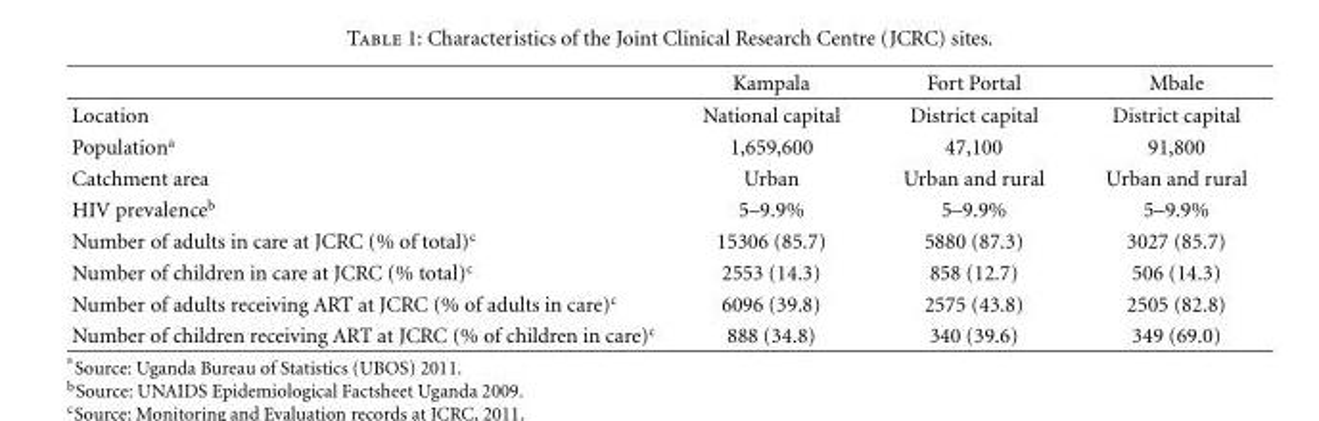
<table><thead><tr><td></td><td>Kampala</td><td>Fort Portal</td><td>Mbale</td></tr></thead><tbody><tr><td>Location</td><td>National capital</td><td>District capital</td><td>District capital</td></tr><tr><td>Population<sup>a</sup></td><td>1,659,600</td><td>47,100</td><td>91,800</td></tr><tr><td>Catchment area</td><td>Urban</td><td>Urban and rural</td><td>Urban and rural</td></tr><tr><td>HIV prevalence<sup>b</sup></td><td>5–9.9%</td><td>5–9.9%</td><td>5–9.9%</td></tr><tr><td>Number of adults in care at JCRC (% of total)<sup>c</sup></td><td>15306 (85.7)</td><td>5880 (87.3)</td><td>3027 (85.7)</td></tr><tr><td>Number of children in care at JCRC (% total)<sup>c</sup></td><td>2553 (14.3)</td><td>858 (12.7)</td><td>506 (14.3)</td></tr><tr><td>Number of adults receiving ART at JCRC (% of adults in care)<sup>c</sup></td><td>6096 (39.8)</td><td>2575 (43.8)</td><td>2505 (82.8)</td></tr><tr><td>Number of children receiving ART at JCRC (% of children in care)<sup>c</sup></td><td>888 (34.8)</td><td>340 (39.6)</td><td>349 (69.0)</td></tr></tbody></table>